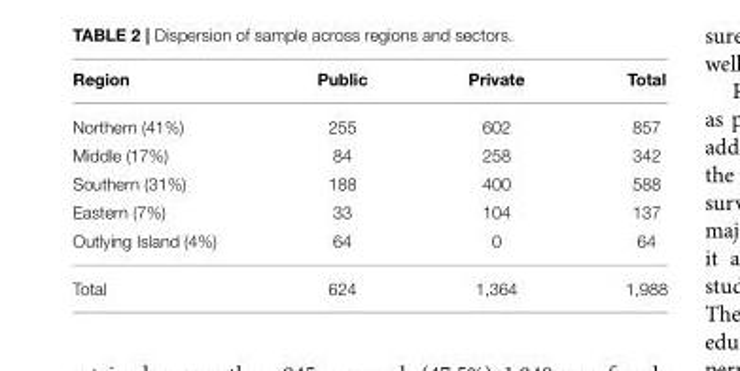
<table><thead><tr><td>Region</td><td>Public</td><td>Private</td><td>Total</td></tr></thead><tbody><tr><td>Northern (41%)</td><td>255</td><td>602</td><td>857</td></tr><tr><td>Middle (17%)</td><td>84</td><td>258</td><td>342</td></tr><tr><td>Southern (31%)</td><td>188</td><td>400</td><td>588</td></tr><tr><td>Eastern (7%)</td><td>33</td><td>104</td><td>137</td></tr><tr><td>Outlying Island (4%)</td><td>64</td><td>0</td><td>64</td></tr><tr><td>Total</td><td>624</td><td>1,364</td><td>1,988</td></tr></tbody></table>